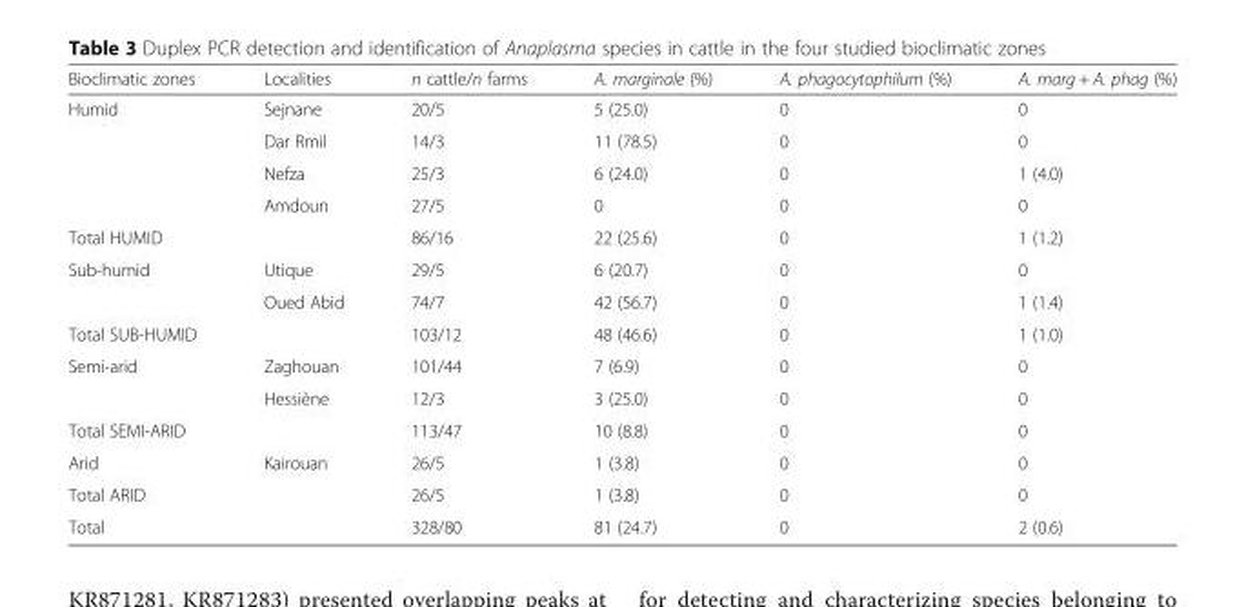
<table><thead><tr><td>Bioclimatic zones</td><td>Localities</td><td>n cattle/n farms</td><td>A. marginale (%)</td><td>A. phagocytophilum (%)</td><td>A. marg + A. phag (%)</td></tr></thead><tbody><tr><td rowspan="4">Humid</td><td>Sejnane</td><td>20/5</td><td>5 (25.0)</td><td>0</td><td>0</td></tr><tr><td>Dar Rmil</td><td>14/3</td><td>11 (78.5)</td><td>0</td><td>0</td></tr><tr><td>Nefza</td><td>25/3</td><td>6 (24.0)</td><td>0</td><td>1 (4.0)</td></tr><tr><td>Amdoun</td><td>27/5</td><td>0</td><td>0</td><td>0</td></tr><tr><td>Total HUMID</td><td></td><td>86/16</td><td>22 (25.6)</td><td>0</td><td>1 (1.2)</td></tr><tr><td rowspan="2">Sub-humid</td><td>Utique</td><td>29/5</td><td>6 (20.7)</td><td>0</td><td>0</td></tr><tr><td>Oued Abid</td><td>74/7</td><td>42 (56.7)</td><td>0</td><td>1 (1.4)</td></tr><tr><td>Total SUB-HUMID</td><td></td><td>103/12</td><td>48 (46.6)</td><td>0</td><td>1 (1.0)</td></tr><tr><td rowspan="2">Semi-arid</td><td>Zaghouan</td><td>101/44</td><td>7 (6.9)</td><td>0</td><td>0</td></tr><tr><td>Hessiène</td><td>12/3</td><td>3 (25.0)</td><td>0</td><td>0</td></tr><tr><td>Total SEMI-ARID</td><td></td><td>113/47</td><td>10 (8.8)</td><td>0</td><td>0</td></tr><tr><td>Arid</td><td>Kairouan</td><td>26/5</td><td>1 (3.8)</td><td>0</td><td>0</td></tr><tr><td>Total ARID</td><td></td><td>26/5</td><td>1 (3.8)</td><td>0</td><td>0</td></tr><tr><td>Total</td><td></td><td>328/80</td><td>81 (24.7)</td><td>0</td><td>2 (0.6)</td></tr></tbody></table>